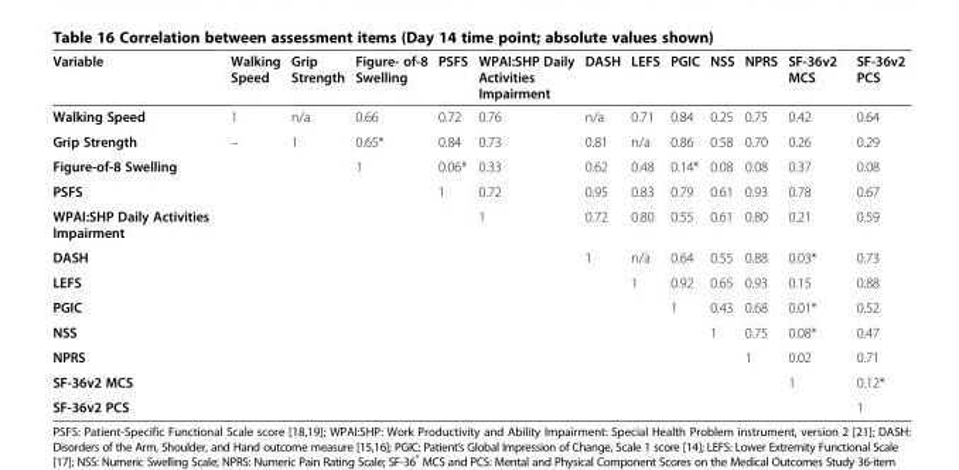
<table><thead><tr><td>Variable</td><td>Walking Speed</td><td>Grip Strength</td><td>Figure- of-8 Swelling</td><td>PSFS</td><td>WPAI:SHP Daily Activities Impairment</td><td>DASH</td><td>LEFS</td><td>PGIC</td><td>NSS</td><td>NPRS</td><td>SF-36v2 MCS</td><td>SF-36v2 PCS</td></tr></thead><tbody><tr><td>Walking Speed</td><td>1</td><td>n/a</td><td>0.66</td><td>0.72</td><td>0.76</td><td>n/a</td><td>0.71</td><td>0.84</td><td>0.25</td><td>0.75</td><td>0.42</td><td>0.64</td></tr><tr><td>Grip Strength</td><td>–</td><td>1</td><td>0.65*</td><td>0.84</td><td>0.73</td><td>0.81</td><td>n/a</td><td>0.86</td><td>0.58</td><td>0.70</td><td>0.26</td><td>0.29</td></tr><tr><td>Figure-of-8 Swelling</td><td></td><td></td><td>1</td><td>0.06*</td><td>0.33</td><td>0.62</td><td>0.48</td><td>0.14*</td><td>0.08</td><td>0.08</td><td>0.37</td><td>0.08</td></tr><tr><td>PSFS</td><td></td><td></td><td></td><td>1</td><td>0.72</td><td>0.95</td><td>0.83</td><td>0.79</td><td>0.61</td><td>0.93</td><td>0.78</td><td>0.67</td></tr><tr><td>WPAI:SHP Daily Activities Impairment</td><td></td><td></td><td></td><td></td><td>1</td><td>0.72</td><td>0.80</td><td>0.55</td><td>0.61</td><td>0.80</td><td>0.21</td><td>0.59</td></tr><tr><td>DASH</td><td></td><td></td><td></td><td></td><td></td><td>1</td><td>n/a</td><td>0.64</td><td>0.55</td><td>0.88</td><td>0.03*</td><td>0.73</td></tr><tr><td>LEFS</td><td></td><td></td><td></td><td></td><td></td><td></td><td>1</td><td>0.92</td><td>0.65</td><td>0.93</td><td>0.15</td><td>0.88</td></tr><tr><td>PGIC</td><td></td><td></td><td></td><td></td><td></td><td></td><td></td><td>1</td><td>0.43</td><td>0.68</td><td>0.01*</td><td>0.52</td></tr><tr><td>NSS</td><td></td><td></td><td></td><td></td><td></td><td></td><td></td><td></td><td>1</td><td>0.75</td><td>0.08*</td><td>0.47</td></tr><tr><td>NPRS</td><td></td><td></td><td></td><td></td><td></td><td></td><td></td><td></td><td></td><td>1</td><td>0.02</td><td>0.71</td></tr><tr><td>SF-36v2 MCS</td><td></td><td></td><td></td><td></td><td></td><td></td><td></td><td></td><td></td><td></td><td>1</td><td>0.12*</td></tr><tr><td>SF-36v2 PCS</td><td></td><td></td><td></td><td></td><td></td><td></td><td></td><td></td><td></td><td></td><td></td><td>1</td></tr></tbody></table>